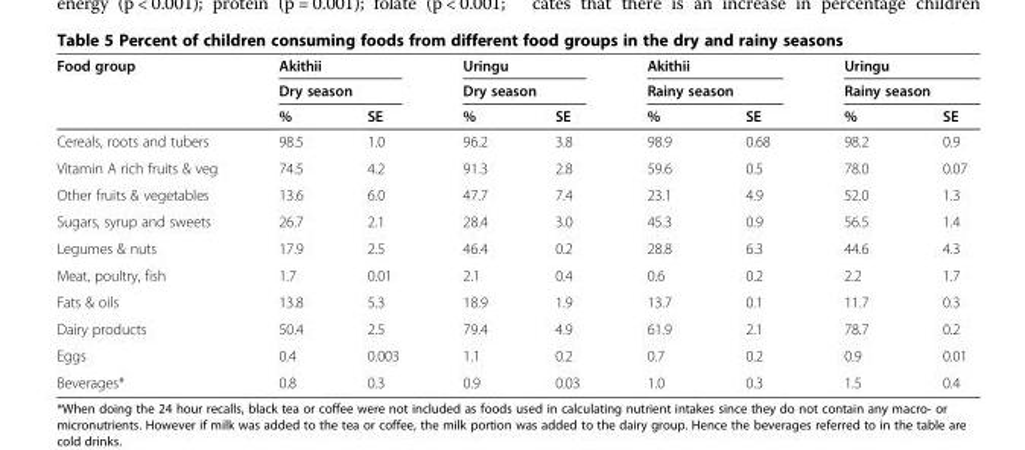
<table><thead><tr><td rowspan="3">Food group</td><td rowspan="2" colspan="2">Akithii Dry season</td><td rowspan="2" colspan="2">Uringu Dry season</td><td rowspan="2" colspan="2">Akithii Rainy season</td><td rowspan="2" colspan="2">Uringu Rainy season</td></tr><tr></tr><tr><td>%</td><td>SE</td><td>%</td><td>SE</td><td>%</td><td>SE</td><td>%</td><td>SE</td></tr></thead><tbody><tr><td>Cereals, roots and tubers</td><td>98.5</td><td>1.0</td><td>96.2</td><td>3.8</td><td>98.9</td><td>0.68</td><td>98.2</td><td>0.9</td></tr><tr><td>Vitamin A rich fruits &amp; veg</td><td>74.5</td><td>4.2</td><td>91.3</td><td>2.8</td><td>59.6</td><td>0.5</td><td>78.0</td><td>0.07</td></tr><tr><td>Other fruits &amp; vegetables</td><td>13.6</td><td>6.0</td><td>47.7</td><td>7.4</td><td>23.1</td><td>4.9</td><td>52.0</td><td>1.3</td></tr><tr><td>Sugars, syrup and sweets</td><td>26.7</td><td>2.1</td><td>28.4</td><td>3.0</td><td>45.3</td><td>0.9</td><td>56.5</td><td>1.4</td></tr><tr><td>Legumes &amp; nuts</td><td>17.9</td><td>2.5</td><td>46.4</td><td>0.2</td><td>28.8</td><td>6.3</td><td>44.6</td><td>4.3</td></tr><tr><td>Meat, poultry, fish</td><td>1.7</td><td>0.01</td><td>2.1</td><td>0.4</td><td>0.6</td><td>0.2</td><td>2.2</td><td>1.7</td></tr><tr><td>Fats &amp; oils</td><td>13.8</td><td>5.3</td><td>18.9</td><td>1.9</td><td>13.7</td><td>0.1</td><td>11.7</td><td>0.3</td></tr><tr><td>Dairy products</td><td>50.4</td><td>2.5</td><td>79.4</td><td>4.9</td><td>61.9</td><td>2.1</td><td>78.7</td><td>0.2</td></tr><tr><td>Eggs</td><td>0.4</td><td>0.003</td><td>1.1</td><td>0.2</td><td>0.7</td><td>0.2</td><td>0.9</td><td>0.01</td></tr><tr><td>Beverages*</td><td>0.8</td><td>0.3</td><td>0.9</td><td>0.03</td><td>1.0</td><td>0.3</td><td>1.5</td><td>0.4</td></tr></tbody></table>